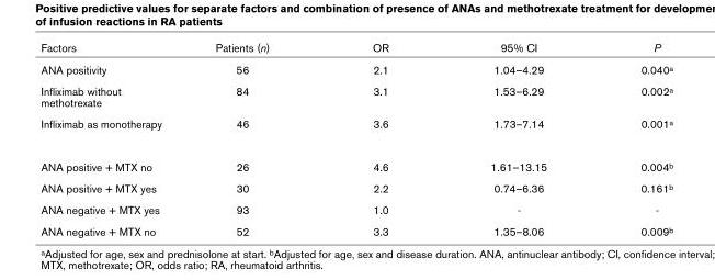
<table><thead><tr><td>Factors</td><td>Patients (n)</td><td>OR</td><td>95% CI</td><td>P</td></tr></thead><tbody><tr><td>ANA positivity</td><td>56</td><td>2.1</td><td>1.04–4.29</td><td>0.040a</td></tr><tr><td>Infliximab without methotrexate</td><td>84</td><td>3.1</td><td>1.53–6.29</td><td>0.002a</td></tr><tr><td>Infliximab as monotherapy</td><td>46</td><td>3.6</td><td>1.73–7.14</td><td>0.001a</td></tr><tr><td>ANA positive + MTX no</td><td>26</td><td>4.6</td><td>1.61–13.15</td><td>0.004b</td></tr><tr><td>ANA positive + MTX yes</td><td>30</td><td>2.2</td><td>0.74–6.36</td><td>0.161b</td></tr><tr><td>ANA negative + MTX yes</td><td>93</td><td>1.0</td><td>-</td><td>-</td></tr><tr><td>ANA negative + MTX no</td><td>52</td><td>3.3</td><td>1.35–8.06</td><td>0.009b</td></tr></tbody></table>